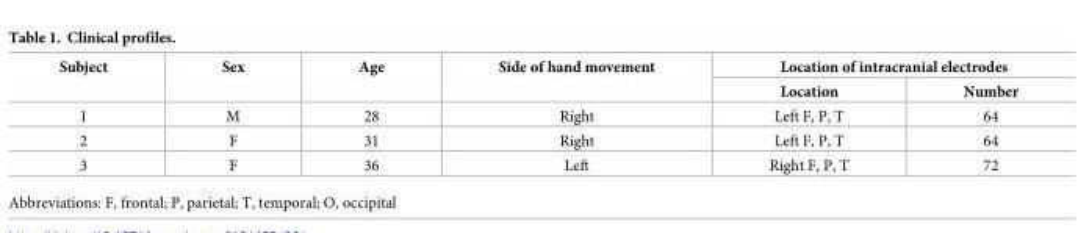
<table><thead><tr><td rowspan="2">Subject</td><td rowspan="2">Sex</td><td rowspan="2">Age</td><td rowspan="2">Side of hand movement</td><td colspan="2">Location of intracranial electrodes</td></tr><tr><td>Location</td><td>Number</td></tr></thead><tbody><tr><td>1</td><td>M</td><td>28</td><td>Right</td><td>Left F, P, T</td><td>64</td></tr><tr><td>2</td><td>F</td><td>31</td><td>Right</td><td>Left F, P, T</td><td>64</td></tr><tr><td>3</td><td>F</td><td>36</td><td>Left</td><td>Right F, P, T</td><td>72</td></tr></tbody></table>